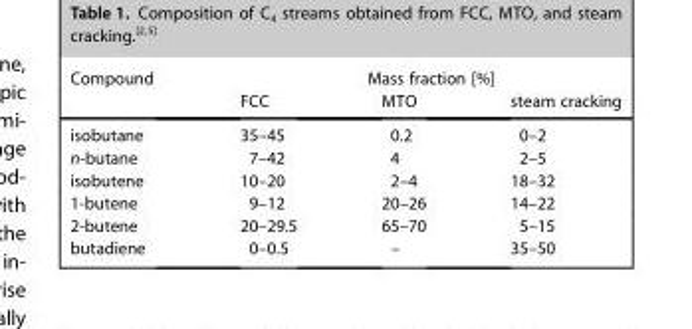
<table><thead><tr><td rowspan="2">Compound</td><td colspan="3">Mass fraction [%]</td></tr><tr><td>FCC</td><td>MTO</td><td>steam cracking</td></tr></thead><tbody><tr><td>isobutane</td><td>35–45</td><td>0.2</td><td>0–2</td></tr><tr><td>n-butane</td><td>7–42</td><td>4</td><td>2–5</td></tr><tr><td>isobutene</td><td>10–20</td><td>2–4</td><td>18–32</td></tr><tr><td>1-butene</td><td>9–12</td><td>20–26</td><td>14–22</td></tr><tr><td>2-butene</td><td>20–29.5</td><td>65–70</td><td>5–15</td></tr><tr><td>butadiene</td><td>0–0.5</td><td>–</td><td>35–50</td></tr></tbody></table>